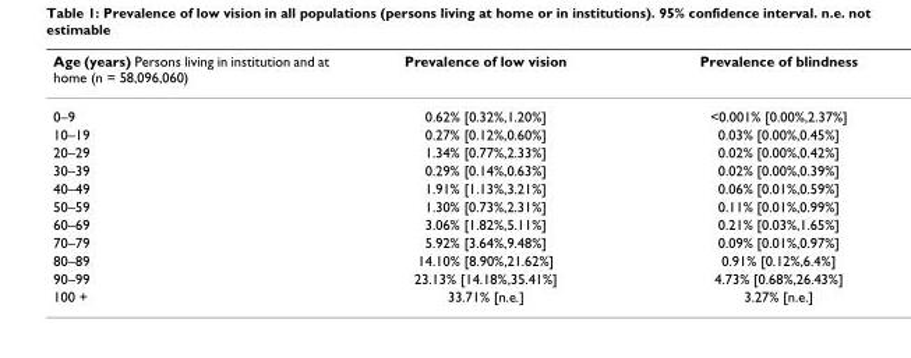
<table><thead><tr><td>Age (years) Persons living in institution and at home (n = 58,096,060)</td><td>Prevalence of low vision</td><td>Prevalence of blindness</td></tr></thead><tbody><tr><td>0–9</td><td>0.62% [0.32%,1.20%]</td><td>&lt;0.001% [0.00%,2.37%]</td></tr><tr><td>10–19</td><td>0.27% [0.12%,0.60%]</td><td>0.03% [0.00%,0.45%]</td></tr><tr><td>20–29</td><td>1.34% [0.77%,2.33%]</td><td>0.02% [0.00%,0.42%]</td></tr><tr><td>30–39</td><td>0.29% [0.14%,0.63%]</td><td>0.02% [0.00%,0.39%]</td></tr><tr><td>40–49</td><td>1.91% [1.13%,3.21%]</td><td>0.06% [0.01%,0.59%]</td></tr><tr><td>50–59</td><td>1.30% [0.73%,2.31%]</td><td>0.11% [0.01%,0.99%]</td></tr><tr><td>60–69</td><td>3.06% [1.82%,5.11%]</td><td>0.21% [0.03%,1.65%]</td></tr><tr><td>70–79</td><td>5.92% [3.64%,9.48%]</td><td>0.09% [0.01%,0.97%]</td></tr><tr><td>80–89</td><td>14.10% [8.90%,21.62%]</td><td>0.91% [0.12%,6.4%]</td></tr><tr><td>90–99</td><td>23.13% [14.18%,35.41%]</td><td>4.73% [0.68%,26.43%]</td></tr><tr><td>100 +</td><td>33.71% [n.e.]</td><td>3.27% [n.e.]</td></tr></tbody></table>